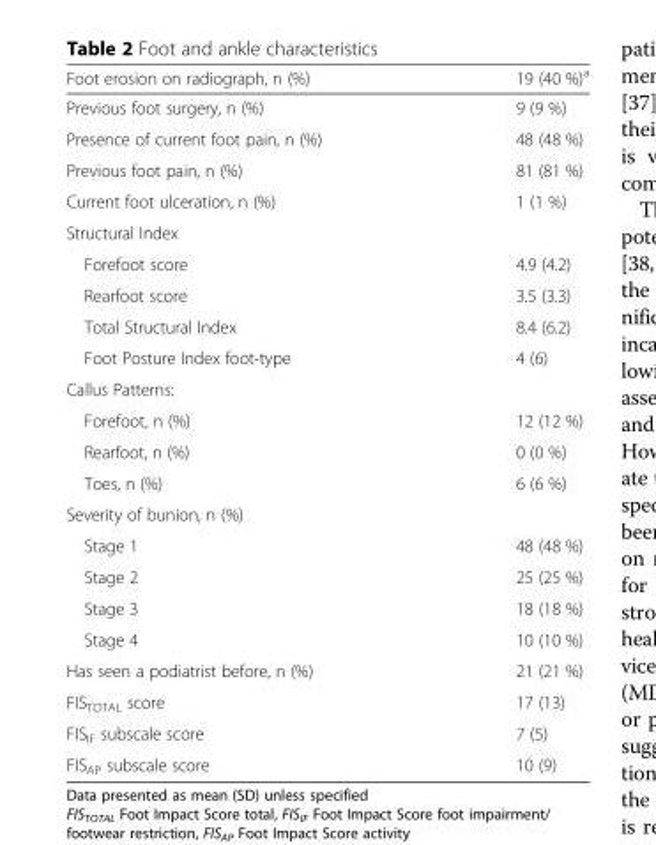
<table><thead><tr><td>Foot erosion on radiograph, n (%)</td><td>19 (40 %)<sup>a</sup></td></tr></thead><tbody><tr><td>Previous foot surgery, n (%)</td><td>9 (9 %)</td></tr><tr><td>Presence of current foot pain, n (%)</td><td>48 (48 %)</td></tr><tr><td>Previous foot pain, n (%)</td><td>81 (81 %)</td></tr><tr><td>Current foot ulceration, n (%)</td><td>1 (1 %)</td></tr><tr><td colspan="2">Structural Index</td></tr><tr><td>Forefoot score</td><td>4.9 (4.2)</td></tr><tr><td>Rearfoot score</td><td>3.5 (3.3)</td></tr><tr><td>Total Structural Index</td><td>8.4 (6.2)</td></tr><tr><td>Foot Posture Index foot-type</td><td>4 (6)</td></tr><tr><td colspan="2">Callus Patterns:</td></tr><tr><td>Forefoot, n (%)</td><td>12 (12 %)</td></tr><tr><td>Rearfoot, n (%)</td><td>0 (0 %)</td></tr><tr><td>Toes, n (%)</td><td>6 (6 %)</td></tr><tr><td colspan="2">Severity of bunion, n (%)</td></tr><tr><td>Stage 1</td><td>48 (48 %)</td></tr><tr><td>Stage 2</td><td>25 (25 %)</td></tr><tr><td>Stage 3</td><td>18 (18 %)</td></tr><tr><td>Stage 4</td><td>10 (10 %)</td></tr><tr><td>Has seen a podiatrist before, n (%)</td><td>21 (21 %)</td></tr><tr><td>FIS<sub>TOTAL</sub> score</td><td>17 (13)</td></tr><tr><td>FIS<sub>IF</sub> subscale score</td><td>7 (5)</td></tr><tr><td>FIS<sub>AP</sub> subscale score</td><td>10 (9)</td></tr></tbody></table>